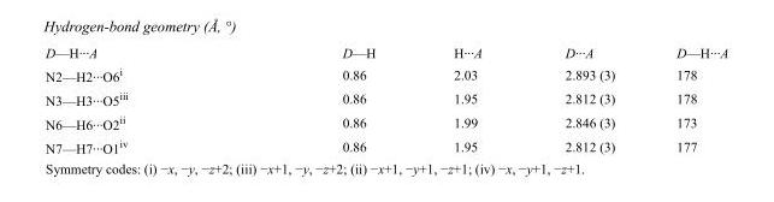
<table><tbody><tr><td>D—H···A</td><td>D—H</td><td>H···A</td><td>D···A</td><td>D—H···A</td></tr><tr><td>N2—H2···O6<sup>i</sup></td><td>0.86</td><td>2.03</td><td>2.893 (3)</td><td>178</td></tr><tr><td>N3—H3···O5<sup>iii</sup></td><td>0.86</td><td>1.95</td><td>2.812 (3)</td><td>178</td></tr><tr><td>N6—H6···O2<sup>ii</sup></td><td>0.86</td><td>1.99</td><td>2.846 (3)</td><td>173</td></tr><tr><td>N7—H7···O1<sup>iv</sup></td><td>0.86</td><td>1.95</td><td>2.812 (3)</td><td>177</td></tr></tbody></table>